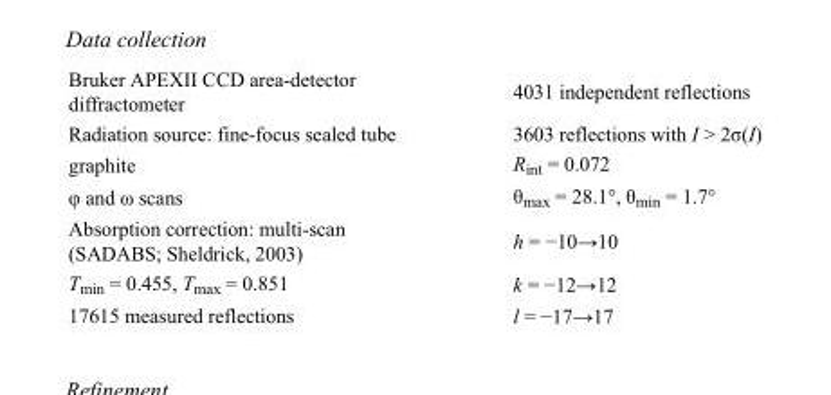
<table><tbody><tr><td>Bruker APEXII CCD area-detector diffractometer</td><td>4031 independent reflections</td></tr><tr><td>Radiation source: fine-focus sealed tube</td><td>3603 reflections with I &gt; 2σ(I)</td></tr><tr><td>graphite</td><td>R<sub>int</sub> = 0.072</td></tr><tr><td>φ and ω scans</td><td>θ<sub>max</sub> = 28.1°, θ<sub>min</sub> = 1.7°</td></tr><tr><td>Absorption correction: multi-scan (SADABS; Sheldrick, 2003)</td><td>h = −10→10</td></tr><tr><td>T<sub>min</sub> = 0.455, T<sub>max</sub> = 0.851</td><td>k = −12→12</td></tr><tr><td>17615 measured reflections</td><td>l = −17→17</td></tr></tbody></table>